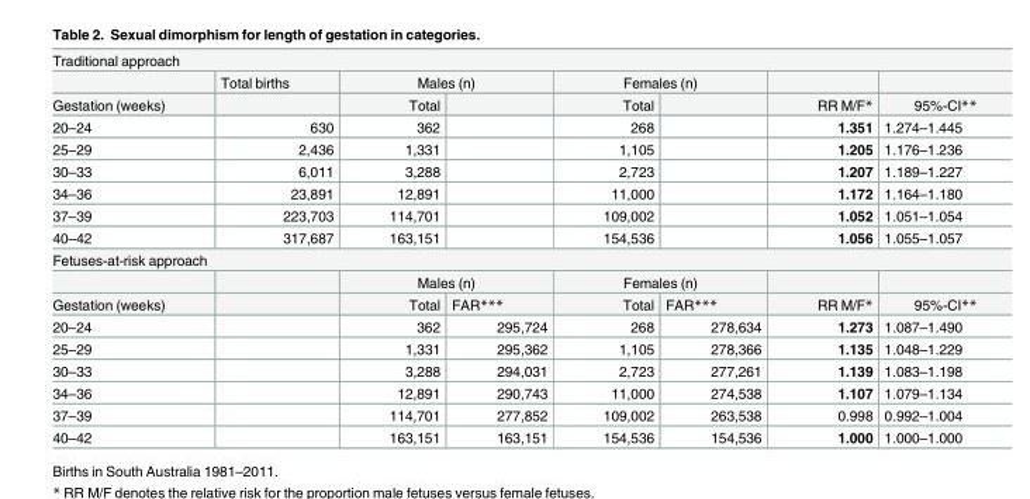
<table><tbody><tr><td colspan="8">Traditional approach</td></tr><tr><td></td><td>Total births</td><td colspan="2">Males (n)</td><td colspan="2">Females (n)</td><td></td><td></td></tr><tr><td>Gestation (weeks)</td><td></td><td>Total</td><td></td><td>Total</td><td></td><td>RR M/F*</td><td>95%-CI**</td></tr><tr><td>20–24</td><td>630</td><td>362</td><td></td><td>268</td><td></td><td>1.351</td><td>1.274–1.445</td></tr><tr><td>25–29</td><td>2,436</td><td>1,331</td><td></td><td>1,105</td><td></td><td>1.205</td><td>1.176–1.236</td></tr><tr><td>30–33</td><td>6,011</td><td>3,288</td><td></td><td>2,723</td><td></td><td>1.207</td><td>1.189–1.227</td></tr><tr><td>34–36</td><td>23,891</td><td>12,891</td><td></td><td>11,000</td><td></td><td>1.172</td><td>1.164–1.180</td></tr><tr><td>37–39</td><td>223,703</td><td>114,701</td><td></td><td>109,002</td><td></td><td>1.052</td><td>1.051–1.054</td></tr><tr><td>40–42</td><td>317,687</td><td>163,151</td><td></td><td>154,536</td><td></td><td>1.056</td><td>1.055–1.057</td></tr><tr><td colspan="8">Fetuses-at-risk approach</td></tr><tr><td></td><td></td><td colspan="2">Males (n)</td><td colspan="2">Females (n)</td><td></td><td></td></tr><tr><td>Gestation (weeks)</td><td></td><td>Total</td><td>FAR***</td><td>Total</td><td>FAR***</td><td>RR M/F*</td><td>95%-CI**</td></tr><tr><td>20–24</td><td></td><td>362</td><td>295,724</td><td>268</td><td>278,634</td><td>1.273</td><td>1.087–1.490</td></tr><tr><td>25–29</td><td></td><td>1,331</td><td>295,362</td><td>1,105</td><td>278,366</td><td>1.135</td><td>1.048–1.229</td></tr><tr><td>30–33</td><td></td><td>3,288</td><td>294,031</td><td>2,723</td><td>277,261</td><td>1.139</td><td>1.083–1.198</td></tr><tr><td>34–36</td><td></td><td>12,891</td><td>290,743</td><td>11,000</td><td>274,538</td><td>1.107</td><td>1.079–1.134</td></tr><tr><td>37–39</td><td></td><td>114,701</td><td>277,852</td><td>109,002</td><td>263,538</td><td>0.998</td><td>0.992–1.004</td></tr><tr><td>40–42</td><td></td><td>163,151</td><td>163,151</td><td>154,536</td><td>154,536</td><td>1.000</td><td>1.000–1.000</td></tr></tbody></table>